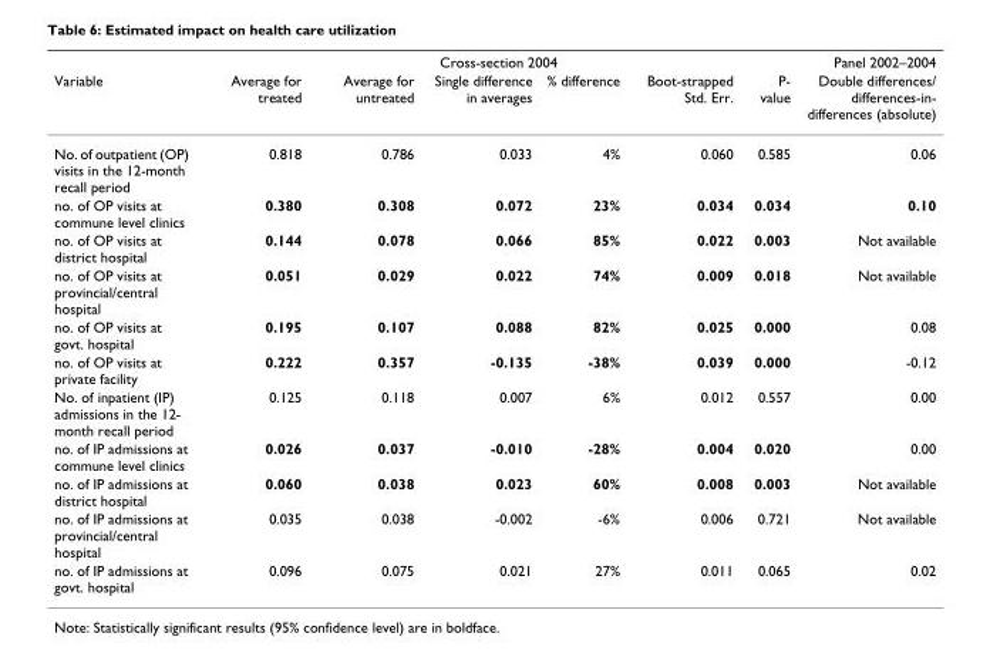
<table><thead><tr><td rowspan="2">Variable</td><td colspan="6">Cross-section 2004</td><td rowspan="2">Panel 2002–2004 Double differences/ differences-in- differences (absolute)</td></tr><tr><td>Average for treated</td><td>Average for untreated</td><td>Single difference in averages</td><td>% difference</td><td>Boot-strapped Std. Err.</td><td>P- value</td></tr></thead><tbody><tr><td>No. of outpatient (OP) visits in the 12-month recall period</td><td>0.818</td><td>0.786</td><td>0.033</td><td>4%</td><td>0.060</td><td>0.585</td><td>0.06</td></tr><tr><td>no. of OP visits at commune level clinics</td><td>0.380</td><td>0.308</td><td>0.072</td><td>23%</td><td>0.034</td><td>0.034</td><td>0.10</td></tr><tr><td>no. of OP visits at district hospital</td><td>0.144</td><td>0.078</td><td>0.066</td><td>85%</td><td>0.022</td><td>0.003</td><td>Not available</td></tr><tr><td>no. of OP visits at provincial/central hospital</td><td>0.051</td><td>0.029</td><td>0.022</td><td>74%</td><td>0.009</td><td>0.018</td><td>Not available</td></tr><tr><td>no. of OP visits at govt. hospital</td><td>0.195</td><td>0.107</td><td>0.088</td><td>82%</td><td>0.025</td><td>0.000</td><td>0.08</td></tr><tr><td>no. of OP visits at private facility</td><td>0.222</td><td>0.357</td><td>-0.135</td><td>-38%</td><td>0.039</td><td>0.000</td><td>-0.12</td></tr><tr><td>No. of inpatient (IP) admissions in the 12- month recall period</td><td>0.125</td><td>0.118</td><td>0.007</td><td>6%</td><td>0.012</td><td>0.557</td><td>0.00</td></tr><tr><td>no. of IP admissions at commune level clinics</td><td>0.026</td><td>0.037</td><td>-0.010</td><td>-28%</td><td>0.004</td><td>0.020</td><td>0.00</td></tr><tr><td>no. of IP admissions at district hospital</td><td>0.060</td><td>0.038</td><td>0.023</td><td>60%</td><td>0.008</td><td>0.003</td><td>Not available</td></tr><tr><td>no. of IP admissions at provincial/central hospital</td><td>0.035</td><td>0.038</td><td>-0.002</td><td>-6%</td><td>0.006</td><td>0.721</td><td>Not available</td></tr><tr><td>no. of IP admissions at govt. hospital</td><td>0.096</td><td>0.075</td><td>0.021</td><td>27%</td><td>0.011</td><td>0.065</td><td>0.02</td></tr></tbody></table>